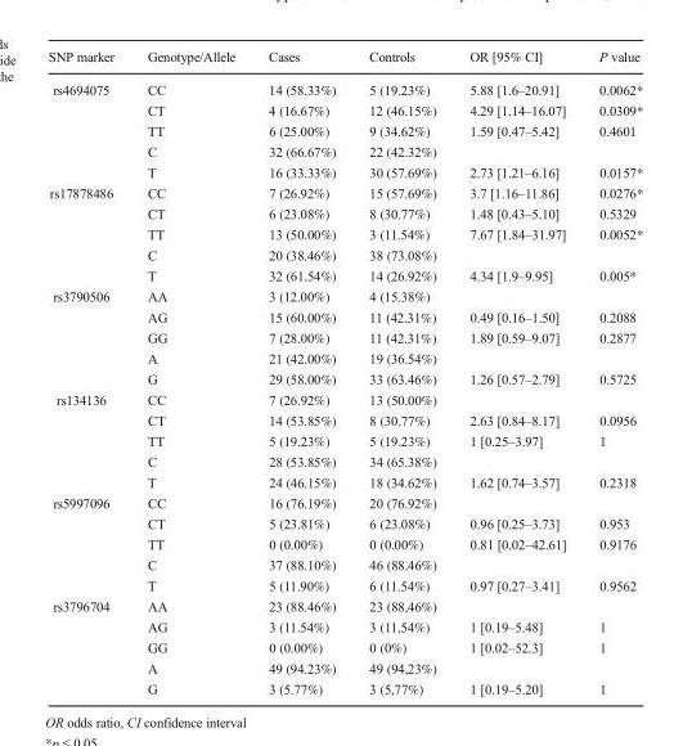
<table><thead><tr><td>SNP marker</td><td>Genotype/Allele</td><td>Cases</td><td>Controls</td><td>OR [95% CI]</td><td>P value</td></tr></thead><tbody><tr><td rowspan="5">rs4694075</td><td>CC</td><td>14 (58.33%)</td><td>5 (19.23%)</td><td>5.88 [1.6–20.91]</td><td>0.0062*</td></tr><tr><td>CT</td><td>4 (16.67%)</td><td>12 (46.15%)</td><td>4.29 [1.14–16.07]</td><td>0.0309*</td></tr><tr><td>TT</td><td>6 (25.00%)</td><td>9 (34.62%)</td><td>1.59 [0.47–5.42]</td><td>0.4601</td></tr><tr><td>C</td><td>32 (66.67%)</td><td>22 (42.32%)</td><td></td><td></td></tr><tr><td>T</td><td>16 (33.33%)</td><td>30 (57.69%)</td><td>2.73 [1.21–6.16]</td><td>0.0157*</td></tr><tr><td rowspan="5">rs17878486</td><td>CC</td><td>7 (26.92%)</td><td>15 (57.69%)</td><td>3.7 [1.16–11.86]</td><td>0.0276*</td></tr><tr><td>CT</td><td>6 (23.08%)</td><td>8 (30.77%)</td><td>1.48 [0.43–5.10]</td><td>0.5329</td></tr><tr><td>TT</td><td>13 (50.00%)</td><td>3 (11.54%)</td><td>7.67 [1.84–31.97]</td><td>0.0052*</td></tr><tr><td>C</td><td>20 (38.46%)</td><td>38 (73.08%)</td><td></td><td></td></tr><tr><td>T</td><td>32 (61.54%)</td><td>14 (26.92%)</td><td>4.34 [1.9–9.95]</td><td>0.005*</td></tr><tr><td rowspan="5">rs3790506</td><td>AA</td><td>3 (12.00%)</td><td>4 (15.38%)</td><td></td><td></td></tr><tr><td>AG</td><td>15 (60.00%)</td><td>11 (42.31%)</td><td>0.49 [0.16–1.50]</td><td>0.2088</td></tr><tr><td>GG</td><td>7 (28.00%)</td><td>11 (42.31%)</td><td>1.89 [0.59–9.07]</td><td>0.2877</td></tr><tr><td>A</td><td>21 (42.00%)</td><td>19 (36.54%)</td><td></td><td></td></tr><tr><td>G</td><td>29 (58.00%)</td><td>33 (63.46%)</td><td>1.26 [0.57–2.79]</td><td>0.5725</td></tr><tr><td rowspan="5">rs134136</td><td>CC</td><td>7 (26.92%)</td><td>13 (50.00%)</td><td></td><td></td></tr><tr><td>CT</td><td>14 (53.85%)</td><td>8 (30.77%)</td><td>2.63 [0.84–8.17]</td><td>0.0956</td></tr><tr><td>TT</td><td>5 (19.23%)</td><td>5 (19.23%)</td><td>1 [0.25–3.97]</td><td>1</td></tr><tr><td>C</td><td>28 (53.85%)</td><td>34 (65.38%)</td><td></td><td></td></tr><tr><td>T</td><td>24 (46.15%)</td><td>18 (34.62%)</td><td>1.62 [0.74–3.57]</td><td>0.2318</td></tr><tr><td rowspan="5">rs5997096</td><td>CC</td><td>16 (76.19%)</td><td>20 (76.92%)</td><td></td><td></td></tr><tr><td>CT</td><td>5 (23.81%)</td><td>6 (23.08%)</td><td>0.96 [0.25–3.73]</td><td>0.953</td></tr><tr><td>TT</td><td>0 (0.00%)</td><td>0 (0.00%)</td><td>0.81 [0.02–42.61]</td><td>0.9176</td></tr><tr><td>C</td><td>37 (88.10%)</td><td>46 (88.46%)</td><td></td><td></td></tr><tr><td>T</td><td>5 (11.90%)</td><td>6 (11.54%)</td><td>0.97 [0.27–3.41]</td><td>0.9562</td></tr><tr><td rowspan="5">rs3796704</td><td>AA</td><td>23 (88.46%)</td><td>23 (88,46%)</td><td></td><td></td></tr><tr><td>AG</td><td>3 (11.54%)</td><td>3 (11,54%)</td><td>1 [0.19–5.48]</td><td>1</td></tr><tr><td>GG</td><td>0 (0.00%)</td><td>0 (0%)</td><td>1 [0.02–52.3]</td><td>1</td></tr><tr><td>A</td><td>49 (94.23%)</td><td>49 (94,23%)</td><td></td><td></td></tr><tr><td>G</td><td>3 (5.77%)</td><td>3 (5,77%)</td><td>1 [0.19–5.20]</td><td>1</td></tr></tbody></table>